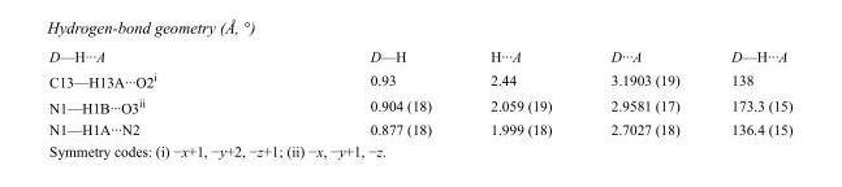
<table><tbody><tr><td>D—H···A</td><td>D—H</td><td>H···A</td><td>D···A</td><td>D—H···A</td></tr><tr><td>C13—H13A···O2<sup>i</sup></td><td>0.93</td><td>2.44</td><td>3.1903 (19)</td><td>138</td></tr><tr><td>N1—H1B···O3<sup>ii</sup></td><td>0.904 (18)</td><td>2.059 (19)</td><td>2.9581 (17)</td><td>173.3 (15)</td></tr><tr><td>N1—H1A···N2</td><td>0.877 (18)</td><td>1.999 (18)</td><td>2.7027 (18)</td><td>136.4 (15)</td></tr></tbody></table>